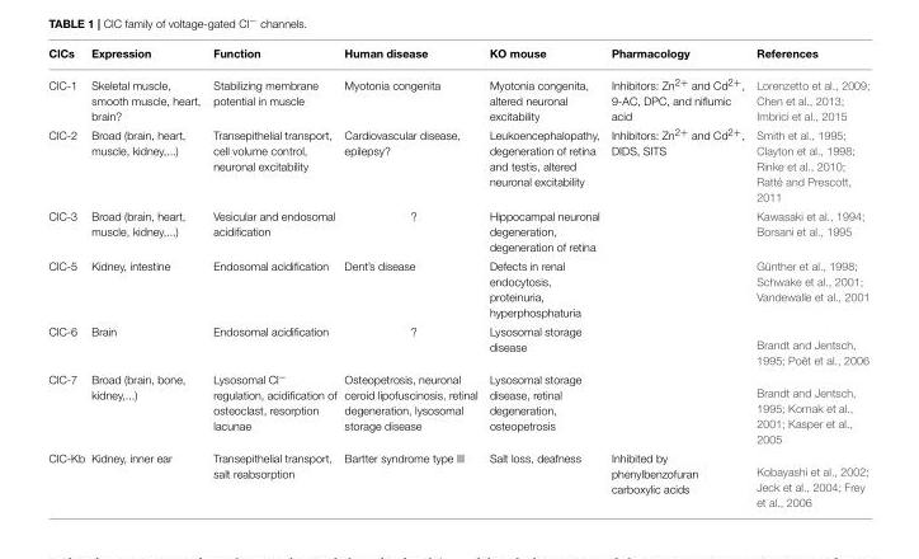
<table><thead><tr><td>ClCs</td><td>Expression</td><td>Function</td><td>Human disease</td><td>KO mouse</td><td>Pharmacology</td><td>References</td></tr></thead><tbody><tr><td>ClC-1</td><td>Skeletal muscle, smooth muscle, heart, brain?</td><td>Stabilizing membrane potential in muscle</td><td>Myotonia congenita</td><td>Myotonia congenita, altered neuronal excitability</td><td>Inhibitors: Zn<sup>2+</sup> and Cd<sup>2+</sup>, 9-AC, DPC, and niflumic acid</td><td>Lorenzetto et al., 2009; Chen et al., 2013; Imbrici et al., 2015</td></tr><tr><td>ClC-2</td><td>Broad (brain, heart, muscle, kidney,...)</td><td>Transepithelial transport, cell volume control, neuronal excitability</td><td>Cardiovascular disease, epilepsy?</td><td>Leukoencephalopathy, degeneration of retina and testis, altered neuronal excitability</td><td>Inhibitors: Zn<sup>2+</sup> and Cd<sup>2+</sup>, DIDS, SITS</td><td>Smith et al., 1995; Clayton et al., 1998; Rinke et al., 2010; Ratté and Prescott, 2011</td></tr><tr><td>ClC-3</td><td>Broad (brain, heart, muscle, kidney,...)</td><td>Vesicular and endosomal acidification</td><td>?</td><td>Hippocampal neuronal degeneration, degeneration of retina</td><td></td><td>Kawasaki et al., 1994; Borsani et al., 1995</td></tr><tr><td>ClC-5</td><td>Kidney, intestine</td><td>Endosomal acidification</td><td>Dent’s disease</td><td>Defects in renal endocytosis, proteinuria, hyperphosphaturia</td><td></td><td>Günther et al., 1998; Schwake et al., 2001; Vandewalle et al., 2001</td></tr><tr><td>ClC-6</td><td>Brain</td><td>Endosomal acidification</td><td>?</td><td>Lysosomal storage disease</td><td></td><td>Brandt and Jentsch, 1995; Poët et al., 2006</td></tr><tr><td>ClC-7</td><td>Broad (brain, bone, kidney,...)</td><td>Lysosomal Cl<sup>−</sup> regulation, acidification of osteoclast, resorption lacunae</td><td>Osteopetrosis, neuronal ceroid lipofuscinosis, retinal degeneration, lysosomal storage disease</td><td>Lysosomal storage disease, retinal degeneration, osteopetrosis</td><td></td><td>Brandt and Jentsch, 1995; Kornak et al., 2001; Kasper et al., 2005</td></tr><tr><td>ClC-Kb</td><td>Kidney, inner ear</td><td>Transepithelial transport, salt reabsorption</td><td>Bartter syndrome type III</td><td>Salt loss, deafness</td><td>Inhibited by phenylbenzofuran carboxylic acids</td><td>Kobayashi et al., 2002; Jeck et al., 2004; Frey et al., 2006</td></tr></tbody></table>